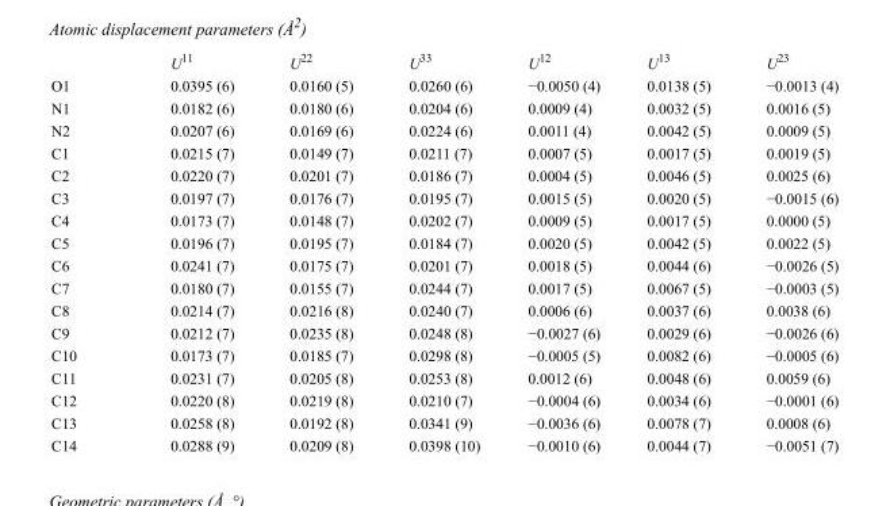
<table><thead><tr><td></td><td>U<sup>11</sup></td><td>U<sup>22</sup></td><td>U<sup>33</sup></td><td>U<sup>12</sup></td><td>U<sup>13</sup></td><td>U<sup>23</sup></td></tr></thead><tbody><tr><td>O1</td><td>0.0395 (6)</td><td>0.0160 (5)</td><td>0.0260 (6)</td><td>−0.0050 (4)</td><td>0.0138 (5)</td><td>−0.0013 (4)</td></tr><tr><td>N1</td><td>0.0182 (6)</td><td>0.0180 (6)</td><td>0.0204 (6)</td><td>0.0009 (4)</td><td>0.0032 (5)</td><td>0.0016 (5)</td></tr><tr><td>N2</td><td>0.0207 (6)</td><td>0.0169 (6)</td><td>0.0224 (6)</td><td>0.0011 (4)</td><td>0.0042 (5)</td><td>0.0009 (5)</td></tr><tr><td>C1</td><td>0.0215 (7)</td><td>0.0149 (7)</td><td>0.0211 (7)</td><td>0.0007 (5)</td><td>0.0017 (5)</td><td>0.0019 (5)</td></tr><tr><td>C2</td><td>0.0220 (7)</td><td>0.0201 (7)</td><td>0.0186 (7)</td><td>0.0004 (5)</td><td>0.0046 (5)</td><td>0.0025 (6)</td></tr><tr><td>C3</td><td>0.0197 (7)</td><td>0.0176 (7)</td><td>0.0195 (7)</td><td>0.0015 (5)</td><td>0.0020 (5)</td><td>−0.0015 (6)</td></tr><tr><td>C4</td><td>0.0173 (7)</td><td>0.0148 (7)</td><td>0.0202 (7)</td><td>0.0009 (5)</td><td>0.0017 (5)</td><td>0.0000 (5)</td></tr><tr><td>C5</td><td>0.0196 (7)</td><td>0.0195 (7)</td><td>0.0184 (7)</td><td>0.0020 (5)</td><td>0.0042 (5)</td><td>0.0022 (5)</td></tr><tr><td>C6</td><td>0.0241 (7)</td><td>0.0175 (7)</td><td>0.0201 (7)</td><td>0.0018 (5)</td><td>0.0044 (6)</td><td>−0.0026 (5)</td></tr><tr><td>C7</td><td>0.0180 (7)</td><td>0.0155 (7)</td><td>0.0244 (7)</td><td>0.0017 (5)</td><td>0.0067 (5)</td><td>−0.0003 (5)</td></tr><tr><td>C8</td><td>0.0214 (7)</td><td>0.0216 (8)</td><td>0.0240 (7)</td><td>0.0006 (6)</td><td>0.0037 (6)</td><td>0.0038 (6)</td></tr><tr><td>C9</td><td>0.0212 (7)</td><td>0.0235 (8)</td><td>0.0248 (8)</td><td>−0.0027 (6)</td><td>0.0029 (6)</td><td>−0.0026 (6)</td></tr><tr><td>C10</td><td>0.0173 (7)</td><td>0.0185 (7)</td><td>0.0298 (8)</td><td>−0.0005 (5)</td><td>0.0082 (6)</td><td>−0.0005 (6)</td></tr><tr><td>C11</td><td>0.0231 (7)</td><td>0.0205 (8)</td><td>0.0253 (8)</td><td>0.0012 (6)</td><td>0.0048 (6)</td><td>0.0059 (6)</td></tr><tr><td>C12</td><td>0.0220 (8)</td><td>0.0219 (8)</td><td>0.0210 (7)</td><td>−0.0004 (6)</td><td>0.0034 (6)</td><td>−0.0001 (6)</td></tr><tr><td>C13</td><td>0.0258 (8)</td><td>0.0192 (8)</td><td>0.0341 (9)</td><td>−0.0036 (6)</td><td>0.0078 (7)</td><td>0.0008 (6)</td></tr><tr><td>C14</td><td>0.0288 (9)</td><td>0.0209 (8)</td><td>0.0398 (10)</td><td>−0.0010 (6)</td><td>0.0044 (7)</td><td>−0.0051 (7)</td></tr></tbody></table>